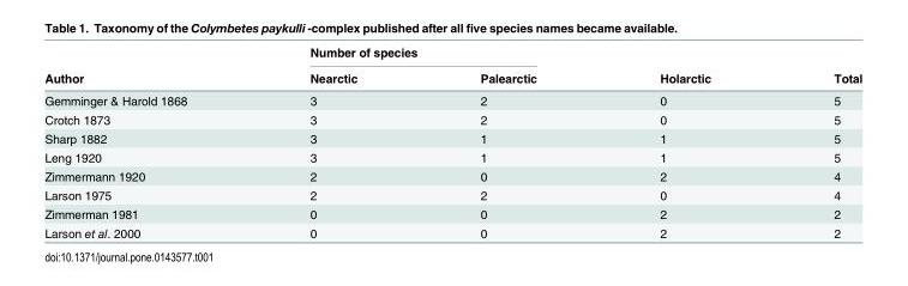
<table><thead><tr><td rowspan="2">Author</td><td colspan="2">Number of species</td><td rowspan="2">Holarctic</td><td rowspan="2">Total</td></tr><tr><td>Nearctic</td><td>Palearctic</td></tr></thead><tbody><tr><td>Gemminger &amp; Harold 1868</td><td>3</td><td>2</td><td>0</td><td>5</td></tr><tr><td>Crotch 1873</td><td>3</td><td>2</td><td>0</td><td>5</td></tr><tr><td>Sharp 1882</td><td>3</td><td>1</td><td>1</td><td>5</td></tr><tr><td>Leng 1920</td><td>3</td><td>1</td><td>1</td><td>5</td></tr><tr><td>Zimmermann 1920</td><td>2</td><td>0</td><td>2</td><td>4</td></tr><tr><td>Larson 1975</td><td>2</td><td>2</td><td>0</td><td>4</td></tr><tr><td>Zimmerman 1981</td><td>0</td><td>0</td><td>2</td><td>2</td></tr><tr><td>Larson et al. 2000</td><td>0</td><td>0</td><td>2</td><td>2</td></tr></tbody></table>